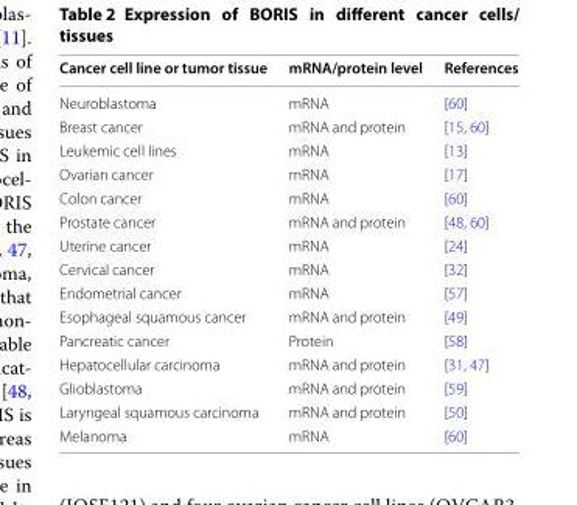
<table><thead><tr><td>Cancer cell line or tumor tissue</td><td>mRNA/protein level</td><td>References</td></tr></thead><tbody><tr><td>Neuroblastoma</td><td>mRNA</td><td>[60]</td></tr><tr><td>Breast cancer</td><td>mRNA and protein</td><td>[15, 60]</td></tr><tr><td>Leukemic cell lines</td><td>mRNA</td><td>[13]</td></tr><tr><td>Ovarian cancer</td><td>mRNA</td><td>[17]</td></tr><tr><td>Colon cancer</td><td>mRNA</td><td>[60]</td></tr><tr><td>Prostate cancer</td><td>mRNA and protein</td><td>[48, 60]</td></tr><tr><td>Uterine cancer</td><td>mRNA</td><td>[24]</td></tr><tr><td>Cervical cancer</td><td>mRNA</td><td>[32]</td></tr><tr><td>Endometrial cancer</td><td>mRNA</td><td>[57]</td></tr><tr><td>Esophageal squamous cancer</td><td>mRNA and protein</td><td>[49]</td></tr><tr><td>Pancreatic cancer</td><td>Protein</td><td>[58]</td></tr><tr><td>Hepatocellular carcinoma</td><td>mRNA and protein</td><td>[31, 47]</td></tr><tr><td>Glioblastoma</td><td>mRNA and protein</td><td>[59]</td></tr><tr><td>Laryngeal squamous carcinoma</td><td>mRNA and protein</td><td>[50]</td></tr><tr><td>Melanoma</td><td>mRNA</td><td>[60]</td></tr></tbody></table>